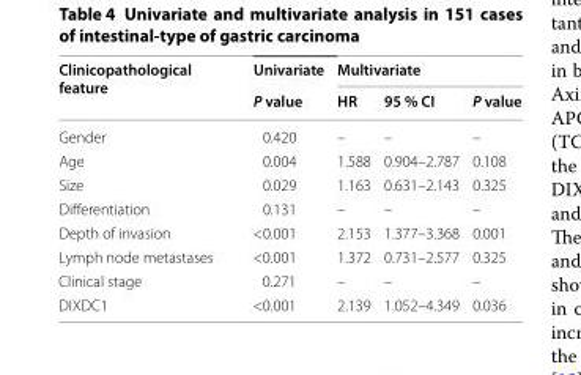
<table><thead><tr><td rowspan="2">Clinicopathological feature</td><td rowspan="2">Univariate P value</td><td colspan="3">Multivariate</td></tr><tr><td>HR</td><td>95 % CI</td><td>P value</td></tr></thead><tbody><tr><td>Gender</td><td>0.420</td><td>–</td><td>–</td><td>–</td></tr><tr><td>Age</td><td>0.004</td><td>1.588</td><td>0.904–2.787</td><td>0.108</td></tr><tr><td>Size</td><td>0.029</td><td>1.163</td><td>0.631–2.143</td><td>0.325</td></tr><tr><td>Differentiation</td><td>0.131</td><td>–</td><td>–</td><td>–</td></tr><tr><td>Depth of invasion</td><td>&lt;0.001</td><td>2.153</td><td>1.377–3.368</td><td>0.001</td></tr><tr><td>Lymph node metastases</td><td>&lt;0.001</td><td>1.372</td><td>0.731–2.577</td><td>0.325</td></tr><tr><td>Clinical stage</td><td>0.271</td><td>–</td><td>–</td><td>–</td></tr><tr><td>DIXDC1</td><td>&lt;0.001</td><td>2.139</td><td>1.052–4.349</td><td>0.036</td></tr></tbody></table>